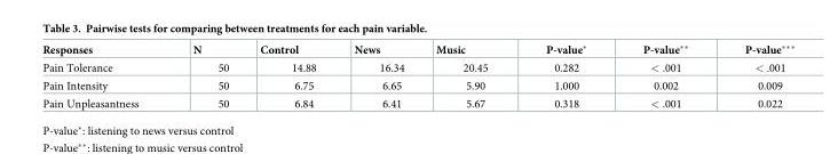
<table><thead><tr><td>Responses</td><td>N</td><td>Control</td><td>News</td><td>Music</td><td>P-value*</td><td>P-value**</td><td>P-value***</td></tr></thead><tbody><tr><td>Pain Tolerance</td><td>50</td><td>14.88</td><td>16.34</td><td>20.45</td><td>0.282</td><td>&lt; .001</td><td>&lt; .001</td></tr><tr><td>Pain Intensity</td><td>50</td><td>6.75</td><td>6.65</td><td>5.90</td><td>1.000</td><td>0.002</td><td>0.009</td></tr><tr><td>Pain Unpleasantness</td><td>50</td><td>6.84</td><td>6.41</td><td>5.67</td><td>0.318</td><td>&lt; .001</td><td>0.022</td></tr></tbody></table>